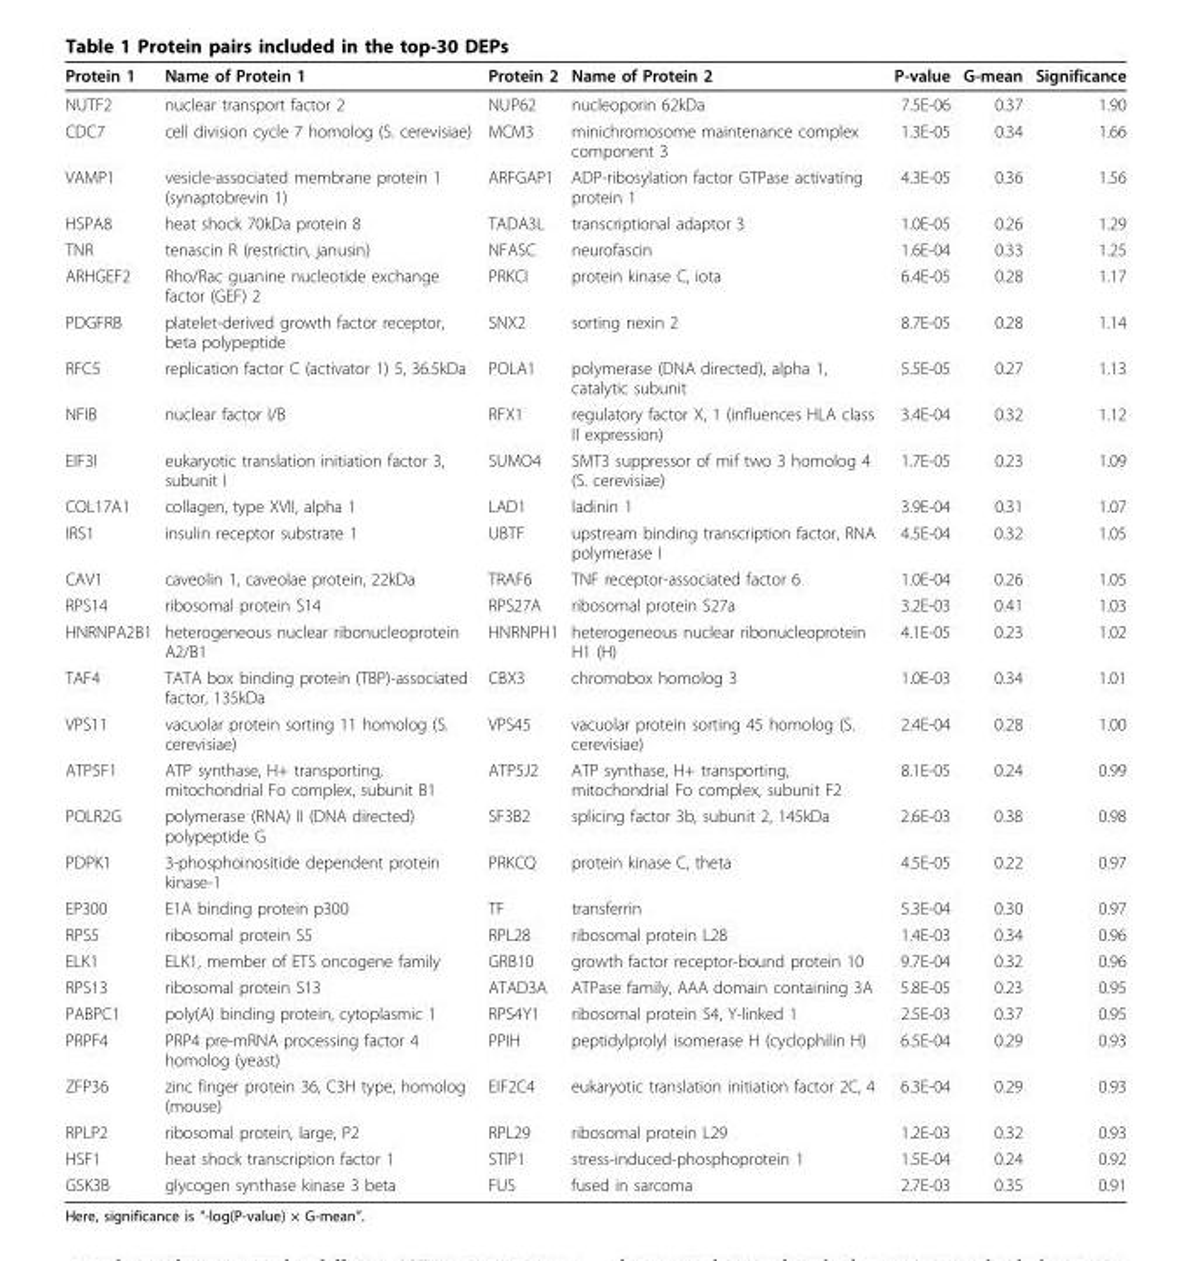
<table><thead><tr><td>Protein 1</td><td>Name of Protein 1</td><td>Protein 2</td><td>Name of Protein 2</td><td>P-value</td><td>G-mean</td><td>Significance</td></tr></thead><tbody><tr><td>NUTF2</td><td>nuclear transport factor 2</td><td>NUP62</td><td>nucleoporin 62kDa</td><td>7.5E-06</td><td>0.37</td><td>1.90</td></tr><tr><td>CDC7</td><td>cell division cycle 7 homolog (S. cerevisiae)</td><td>MCM3</td><td>minichromosome maintenance complex component 3</td><td>1.3E-05</td><td>0.34</td><td>1.66</td></tr><tr><td>VAMP1</td><td>vesicle-associated membrane protein 1 (synaptobrevin 1)</td><td>ARFGAP1</td><td>ADP-ribosylation factor GTPase activating protein 1</td><td>4.3E-05</td><td>0.36</td><td>1.56</td></tr><tr><td>HSPA8</td><td>heat shock 70kDa protein 8</td><td>TADA3L</td><td>transcriptional adaptor 3</td><td>1.0E-05</td><td>0.26</td><td>1.29</td></tr><tr><td>TNR</td><td>tenascin R (restrictin, janusin)</td><td>NFASC</td><td>neurofascin</td><td>1.6E-04</td><td>0.33</td><td>1.25</td></tr><tr><td>ARHGEF2</td><td>Rho/Rac guanine nucleotide exchange factor (GEF) 2</td><td>PRKCI</td><td>protein kinase C, iota</td><td>6.4E-05</td><td>0.28</td><td>1.17</td></tr><tr><td>PDGFRB</td><td>platelet-derived growth factor receptor, beta polypeptide</td><td>SNX2</td><td>sorting nexin 2</td><td>8.7E-05</td><td>0.28</td><td>1.14</td></tr><tr><td>RFC5</td><td>replication factor C (activator 1) 5, 36.5kDa</td><td>POLA1</td><td>polymerase (DNA directed), alpha 1, catalytic subunit</td><td>5.5E-05</td><td>0.27</td><td>1.13</td></tr><tr><td>NFIB</td><td>nuclear factor I/B</td><td>RFX1</td><td>regulatory factor X, 1 (influences HLA class II expression)</td><td>3.4E-04</td><td>0.32</td><td>1.12</td></tr><tr><td>EIF3I</td><td>eukaryotic translation initiation factor 3, subunit I</td><td>SUMO4</td><td>SMT3 suppressor of mif two 3 homolog 4 (S. cerevisiae)</td><td>1.7E-05</td><td>0.23</td><td>1.09</td></tr><tr><td>COL17A1</td><td>collagen, type XVII, alpha 1</td><td>LAD1</td><td>ladinin 1</td><td>3.9E-04</td><td>0.31</td><td>1.07</td></tr><tr><td>IRS1</td><td>insulin receptor substrate 1</td><td>UBTF</td><td>upstream binding transcription factor, RNA polymerase I</td><td>4.5E-04</td><td>0.32</td><td>1.05</td></tr><tr><td>CAV1</td><td>caveolin 1, caveolae protein, 22kDa</td><td>TRAF6</td><td>TNF receptor-associated factor 6</td><td>1.0E-04</td><td>0.26</td><td>1.05</td></tr><tr><td>RPS14</td><td>ribosomal protein S14</td><td>RPS27A</td><td>ribosomal protein S27a</td><td>3.2E-03</td><td>0.41</td><td>1.03</td></tr><tr><td>HNRNPA2B1</td><td>heterogeneous nuclear ribonucleoprotein A2/B1</td><td>HNRNPH1</td><td>heterogeneous nuclear ribonucleoprotein H1 (H)</td><td>4.1E-05</td><td>0.23</td><td>1.02</td></tr><tr><td>TAF4</td><td>TATA box binding protein (TBP)-associated factor, 135kDa</td><td>CBX3</td><td>chromobox homolog 3</td><td>1.0E-03</td><td>0.34</td><td>1.01</td></tr><tr><td>VPS11</td><td>vacuolar protein sorting 11 homolog (S. cerevisiae)</td><td>VPS45</td><td>vacuolar protein sorting 45 homolog (S. cerevisiae)</td><td>2.4E-04</td><td>0.28</td><td>1.00</td></tr><tr><td>ATP5F1</td><td>ATP synthase, H+ transporting, mitochondrial Fo complex, subunit B1</td><td>ATP5J2</td><td>ATP synthase, H+ transporting, mitochondrial Fo complex, subunit F2</td><td>8.1E-05</td><td>0.24</td><td>0.99</td></tr><tr><td>POLR2G</td><td>polymerase (RNA) II (DNA directed) polypeptide G</td><td>SF3B2</td><td>splicing factor 3b, subunit 2, 145kDa</td><td>2.6E-03</td><td>0.38</td><td>0.98</td></tr><tr><td>PDPK1</td><td>3-phosphoinositide dependent protein kinase-1</td><td>PRKCQ</td><td>protein kinase C, theta</td><td>4.5E-05</td><td>0.22</td><td>0.97</td></tr><tr><td>EP300</td><td>E1A binding protein p300</td><td>TF</td><td>transferrin</td><td>5.3E-04</td><td>0.30</td><td>0.97</td></tr><tr><td>RPS5</td><td>ribosomal protein S5</td><td>RPL28</td><td>ribosomal protein L28</td><td>1.4E-03</td><td>0.34</td><td>0.96</td></tr><tr><td>ELK1</td><td>ELK1, member of ETS oncogene family</td><td>GRB10</td><td>growth factor receptor-bound protein 10</td><td>9.7E-04</td><td>0.32</td><td>0.96</td></tr><tr><td>RPS13</td><td>ribosomal protein S13</td><td>ATAD3A</td><td>ATPase family, AAA domain containing 3A</td><td>5.8E-05</td><td>0.23</td><td>0.95</td></tr><tr><td>PABPC1</td><td>poly(A) binding protein, cytoplasmic 1</td><td>RPS4Y1</td><td>ribosomal protein S4, Y-linked 1</td><td>2.5E-03</td><td>0.37</td><td>0.95</td></tr><tr><td>PRPF4</td><td>PRP4 pre-mRNA processing factor 4 homolog (yeast)</td><td>PPIH</td><td>peptidylprolyl isomerase H (cyclophilin H)</td><td>6.5E-04</td><td>0.29</td><td>0.93</td></tr><tr><td>ZFP36</td><td>zinc finger protein 36, C3H type, homolog (mouse)</td><td>EIF2C4</td><td>eukaryotic translation initiation factor 2C, 4</td><td>6.3E-04</td><td>0.29</td><td>0.93</td></tr><tr><td>RPLP2</td><td>ribosomal protein, large, P2</td><td>RPL29</td><td>ribosomal protein L29</td><td>1.2E-03</td><td>0.32</td><td>0.93</td></tr><tr><td>HSF1</td><td>heat shock transcription factor 1</td><td>STIP1</td><td>stress-induced-phosphoprotein 1</td><td>1.5E-04</td><td>0.24</td><td>0.92</td></tr><tr><td>GSK3B</td><td>glycogen synthase kinase 3 beta</td><td>FUS</td><td>fused in sarcoma</td><td>2.7E-03</td><td>0.35</td><td>0.91</td></tr></tbody></table>